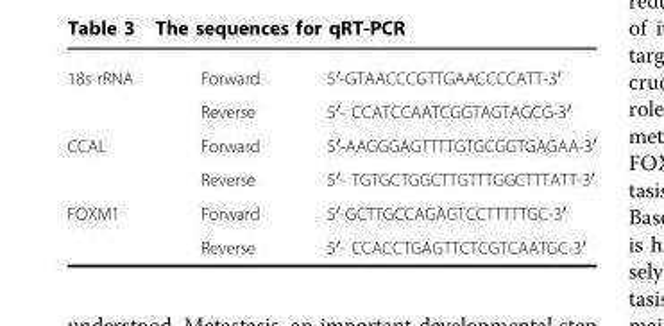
<table><tbody><tr><td rowspan="2">18s rRNA</td><td>Forward</td><td>5′-GTAACCCGTTGAACCCCATT-3′</td></tr><tr><td>Reverse</td><td>5′- CCATCCAATCGGTAGTAGCG-3′</td></tr><tr><td rowspan="2">CCAL</td><td>Forward</td><td>5′-AAGGGAGTTTTGTGCGGTGAGAA-3′</td></tr><tr><td>Reverse</td><td>5′- TGTGCTGGCTTGTTTGGCTTTATT-3′</td></tr><tr><td rowspan="2">FOXM1</td><td>Forward</td><td>5′-GCTTGCCAGAGTCCTTTTTGC-3′</td></tr><tr><td>Reverse</td><td>5′- CCACCTGAGTTCTCGTCAATGC-3′</td></tr></tbody></table>